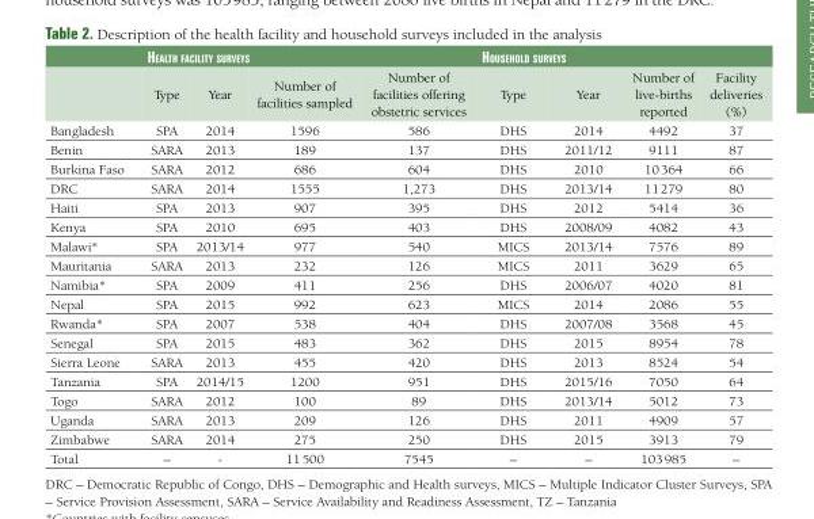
<table><thead><tr><td rowspan="2"></td><td colspan="4">HealtH facIlIty surveys</td><td colspan="4">HouseHold surveys</td></tr><tr><td>Type</td><td>Year</td><td>Number of facilities sampled</td><td>Number of facilities offering obstetric services</td><td>Type</td><td>Year</td><td>Number of live-births reported</td><td>Facility deliveries (%)</td></tr></thead><tbody><tr><td>Bangladesh</td><td>SPA</td><td>2014</td><td>1596</td><td>586</td><td>DHS</td><td>2014</td><td>4492</td><td>37</td></tr><tr><td>Benin</td><td>SARA</td><td>2013</td><td>189</td><td>137</td><td>DHS</td><td>2011/12</td><td>9111</td><td>87</td></tr><tr><td>Burkina Faso</td><td>SARA</td><td>2012</td><td>686</td><td>604</td><td>DHS</td><td>2010</td><td>10 364</td><td>66</td></tr><tr><td>DRC</td><td>SARA</td><td>2014</td><td>1555</td><td>1,273</td><td>DHS</td><td>2013/14</td><td>11 279</td><td>80</td></tr><tr><td>Haiti</td><td>SPA</td><td>2013</td><td>907</td><td>395</td><td>DHS</td><td>2012</td><td>5414</td><td>36</td></tr><tr><td>Kenya</td><td>SPA</td><td>2010</td><td>695</td><td>403</td><td>DHS</td><td>2008/09</td><td>4082</td><td>43</td></tr><tr><td>Malawi*</td><td>SPA</td><td>2013/14</td><td>977</td><td>540</td><td>MICS</td><td>2013/14</td><td>7576</td><td>89</td></tr><tr><td>Mauritania</td><td>SARA</td><td>2013</td><td>232</td><td>126</td><td>MICS</td><td>2011</td><td>3629</td><td>65</td></tr><tr><td>Namibia*</td><td>SPA</td><td>2009</td><td>411</td><td>256</td><td>DHS</td><td>2006/07</td><td>4020</td><td>81</td></tr><tr><td>Nepal</td><td>SPA</td><td>2015</td><td>992</td><td>623</td><td>MICS</td><td>2014</td><td>2086</td><td>55</td></tr><tr><td>Rwanda*</td><td>SPA</td><td>2007</td><td>538</td><td>404</td><td>DHS</td><td>2007/08</td><td>3568</td><td>45</td></tr><tr><td>Senegal</td><td>SPA</td><td>2015</td><td>483</td><td>362</td><td>DHS</td><td>2015</td><td>8954</td><td>78</td></tr><tr><td>Sierra Leone</td><td>SARA</td><td>2013</td><td>455</td><td>420</td><td>DHS</td><td>2013</td><td>8524</td><td>54</td></tr><tr><td>Tanzania</td><td>SPA</td><td>2014/15</td><td>1200</td><td>951</td><td>DHS</td><td>2015/16</td><td>7050</td><td>64</td></tr><tr><td>Togo</td><td>SARA</td><td>2012</td><td>100</td><td>89</td><td>DHS</td><td>2013/14</td><td>5012</td><td>73</td></tr><tr><td>Uganda</td><td>SARA</td><td>2013</td><td>209</td><td>126</td><td>DHS</td><td>2011</td><td>4909</td><td>57</td></tr><tr><td>Zimbabwe</td><td>SARA</td><td>2014</td><td>275</td><td>250</td><td>DHS</td><td>2015</td><td>3913</td><td>79</td></tr><tr><td>Total</td><td>–</td><td>-</td><td>11 500</td><td>7545</td><td>–</td><td>–</td><td>103 985</td><td>–</td></tr></tbody></table>